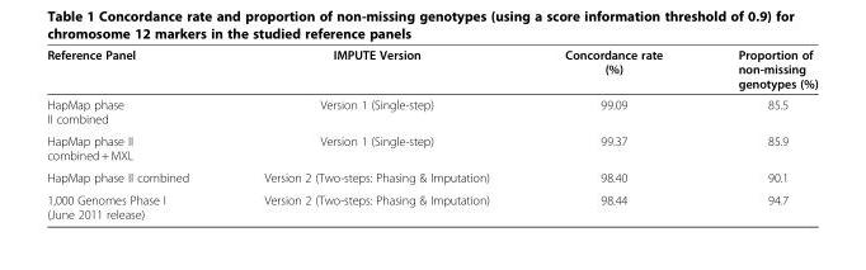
<table><thead><tr><td>Reference Panel</td><td>IMPUTE Version</td><td>Concordance rate (%)</td><td>Proportion of non-missing genotypes (%)</td></tr></thead><tbody><tr><td>HapMap phase II combined</td><td>Version 1 (Single-step)</td><td>99.09</td><td>85.5</td></tr><tr><td>HapMap phase II combined + MXL</td><td>Version 1 (Single-step)</td><td>99.37</td><td>85.9</td></tr><tr><td>HapMap phase II combined</td><td>Version 2 (Two-steps: Phasing &amp; Imputation)</td><td>98.40</td><td>90.1</td></tr><tr><td>1,000 Genomes Phase I (June 2011 release)</td><td>Version 2 (Two-steps: Phasing &amp; Imputation)</td><td>98.44</td><td>94.7</td></tr></tbody></table>